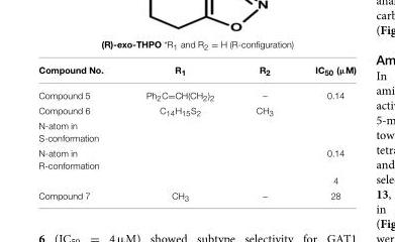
<table><thead><tr><td colspan="4">(R)-exo-THPO *R<sub>1</sub> and R<sub>2</sub> = H (R-configuration)</td></tr><tr><td>Compound No.</td><td>R<sub>1</sub></td><td>R<sub>2</sub></td><td>IC<sub>50</sub> (µM)</td></tr></thead><tbody><tr><td>Compound 5</td><td>Ph<sub>2</sub>C=CH(CH<sub>2</sub>)<sub>2</sub></td><td>–</td><td>0.14</td></tr><tr><td>Compound 6</td><td>C<sub>14</sub>H<sub>15</sub>S<sub>2</sub></td><td>CH<sub>3</sub></td><td></td></tr><tr><td colspan="4">N-atom in S-conformation</td></tr><tr><td rowspan="2">N-atom in R-conformation</td><td></td><td></td><td>0.14</td></tr><tr><td></td><td></td><td>4</td></tr><tr><td>Compound 7</td><td>CH<sub>3</sub></td><td>–</td><td>28</td></tr></tbody></table>